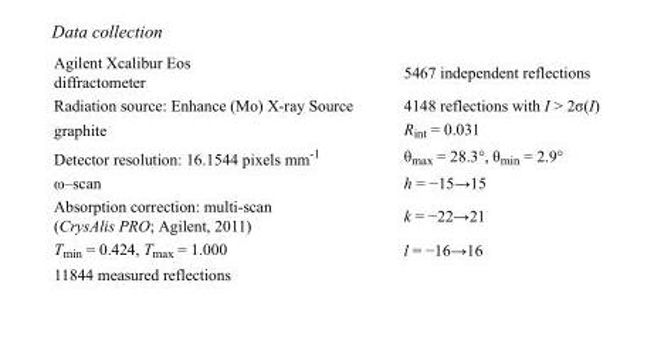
<table><tbody><tr><td>Agilent Xcalibur Eos diffractometer</td><td>5467 independent reflections</td></tr><tr><td>Radiation source: Enhance (Mo) X-ray Source</td><td>4148 reflections with I &gt; 2σ(I)</td></tr><tr><td>graphite</td><td>R<sub>int</sub> = 0.031</td></tr><tr><td>Detector resolution: 16.1544 pixels mm<sup>-1</sup></td><td>θ<sub>max</sub> = 28.3°, θ<sub>min</sub> = 2.9°</td></tr><tr><td>ω–scan</td><td>h = −15→15</td></tr><tr><td>Absorption correction: multi-scan (CrysAlis PRO; Agilent, 2011)</td><td>k = −22→21</td></tr><tr><td>T<sub>min</sub> = 0.424, T<sub>max</sub> = 1.000</td><td>l = −16→16</td></tr><tr><td>11844 measured reflections</td><td></td></tr></tbody></table>